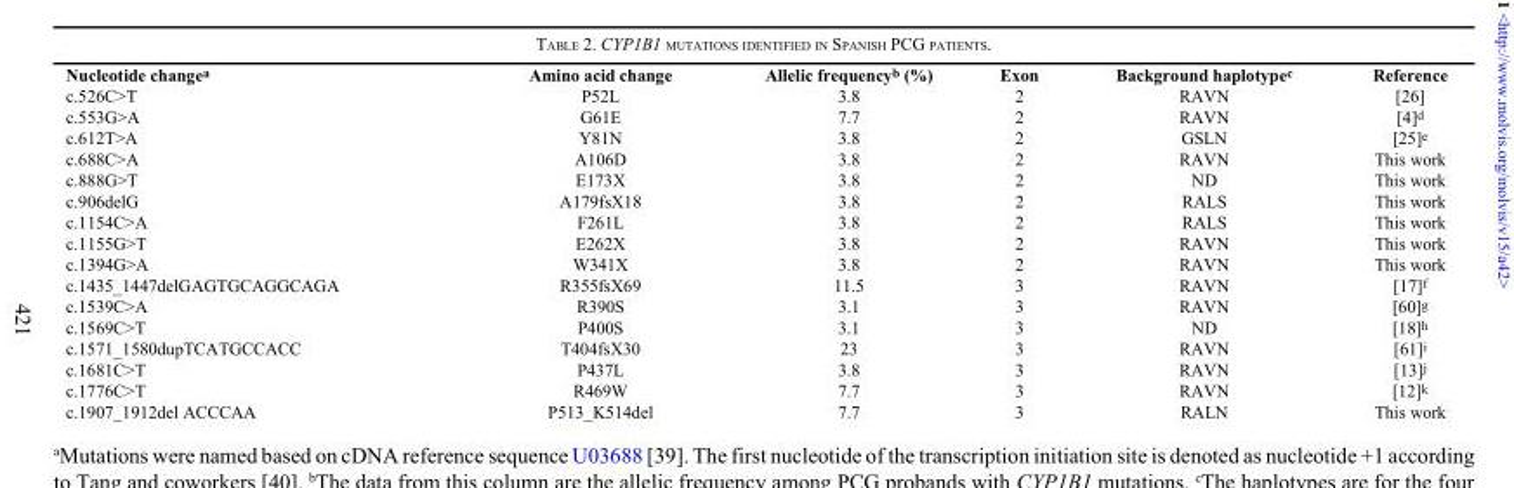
<table><thead><tr><td>Nucleotide change<sup>a</sup></td><td>Amino acid change</td><td>Allelic frequency<sup>b</sup> (%)</td><td>Exon</td><td>Background haplotype<sup>c</sup></td><td>Reference</td></tr></thead><tbody><tr><td>c.526C&gt;T</td><td>P52L</td><td>3.8</td><td>2</td><td>RAVN</td><td>[26]</td></tr><tr><td>c.553G&gt;A</td><td>G61E</td><td>7.7</td><td>2</td><td>RAVN</td><td>[4]<sup>d</sup></td></tr><tr><td>c.612T&gt;A</td><td>Y81N</td><td>3.8</td><td>2</td><td>GSLN</td><td>[25]<sup>e</sup></td></tr><tr><td>c.688C&gt;A</td><td>A106D</td><td>3.8</td><td>2</td><td>RAVN</td><td>This work</td></tr><tr><td>c.888G&gt;T</td><td>E173X</td><td>3.8</td><td>2</td><td>ND</td><td>This work</td></tr><tr><td>c.906delG</td><td>A179fsX18</td><td>3.8</td><td>2</td><td>RALS</td><td>This work</td></tr><tr><td>c.1154C&gt;A</td><td>F261L</td><td>3.8</td><td>2</td><td>RALS</td><td>This work</td></tr><tr><td>c.1155G&gt;T</td><td>E262X</td><td>3.8</td><td>2</td><td>RAVN</td><td>This work</td></tr><tr><td>c.1394G&gt;A</td><td>W341X</td><td>3.8</td><td>2</td><td>RAVN</td><td>This work</td></tr><tr><td>c.1435_1447delGAGTGCAGGCAGA</td><td>R355fsX69</td><td>11.5</td><td>3</td><td>RAVN</td><td>[17]<sup>f</sup></td></tr><tr><td>c.1539C&gt;A</td><td>R390S</td><td>3.1</td><td>3</td><td>RAVN</td><td>[60]<sup>g</sup></td></tr><tr><td>c.1569C&gt;T</td><td>P400S</td><td>3.1</td><td>3</td><td>ND</td><td>[18]<sup>h</sup></td></tr><tr><td>c.1571_1580dupTCATGCCACC</td><td>T404fsX30</td><td>23</td><td>3</td><td>RAVN</td><td>[61]<sup>i</sup></td></tr><tr><td>c.1681C&gt;T</td><td>P437L</td><td>3.8</td><td>3</td><td>RAVN</td><td>[13]<sup>j</sup></td></tr><tr><td>c.1776C&gt;T</td><td>R469W</td><td>7.7</td><td>3</td><td>RAVN</td><td>[12]<sup>k</sup></td></tr><tr><td>c.1907_1912del ACCCAA</td><td>P513_K514del</td><td>7.7</td><td>3</td><td>RALN</td><td>This work</td></tr></tbody></table>